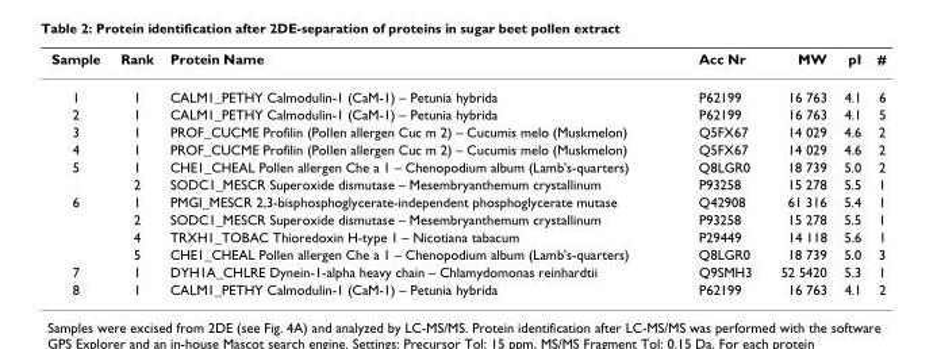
<table><thead><tr><td>Sample</td><td>Rank</td><td>Protein Name</td><td>Acc Nr</td><td>MW</td><td>pI</td><td>#</td></tr></thead><tbody><tr><td>1</td><td>1</td><td>CALM1_PETHY Calmodulin-1 (CaM-1) – Petunia hybrida</td><td>P62199</td><td>16 763</td><td>4.1</td><td>6</td></tr><tr><td>2</td><td>1</td><td>CALM1_PETHY Calmodulin-1 (CaM-1) – Petunia hybrida</td><td>P62199</td><td>16 763</td><td>4.1</td><td>5</td></tr><tr><td>3</td><td>1</td><td>PROF_CUCME Profilin (Pollen allergen Cuc m 2) – Cucumis melo (Muskmelon)</td><td>Q5FX67</td><td>14 029</td><td>4.6</td><td>2</td></tr><tr><td>4</td><td>1</td><td>PROF_CUCME Profilin (Pollen allergen Cuc m 2) – Cucumis melo (Muskmelon)</td><td>Q5FX67</td><td>14 029</td><td>4.6</td><td>2</td></tr><tr><td rowspan="2">5</td><td>1</td><td>CHE1_CHEAL Pollen allergen Che a 1 – Chenopodium album (Lamb&#x27;s-quarters)</td><td>Q8LGR0</td><td>18 739</td><td>5.0</td><td>2</td></tr><tr><td>2</td><td>SODC1_MESCR Superoxide dismutase – Mesembryanthemum crystallinum</td><td>P93258</td><td>15 278</td><td>5.5</td><td>1</td></tr><tr><td rowspan="4">6</td><td>1</td><td>PMGI_MESCR 2,3-bisphosphoglycerate-independent phosphoglycerate mutase</td><td>Q42908</td><td>61 316</td><td>5.4</td><td>1</td></tr><tr><td>2</td><td>SODC1_MESCR Superoxide dismutase – Mesembryanthemum crystallinum</td><td>P93258</td><td>15 278</td><td>5.5</td><td>1</td></tr><tr><td>4</td><td>TRXH1_TOBAC Thioredoxin H-type 1 – Nicotiana tabacum</td><td>P29449</td><td>14 118</td><td>5.6</td><td>1</td></tr><tr><td>5</td><td>CHE1_CHEAL Pollen allergen Che a 1 – Chenopodium album (Lamb&#x27;s-quarters)</td><td>Q8LGR0</td><td>18 739</td><td>5.0</td><td>3</td></tr><tr><td>7</td><td>1</td><td>DYH1A_CHLRE Dynein-1-alpha heavy chain – Chlamydomonas reinhardtii</td><td>Q9SMH3</td><td>52 5420</td><td>5.3</td><td>1</td></tr><tr><td>8</td><td>1</td><td>CALM1_PETHY Calmodulin-1 (CaM-1) – Petunia hybrida</td><td>P62199</td><td>16 763</td><td>4.1</td><td>2</td></tr></tbody></table>